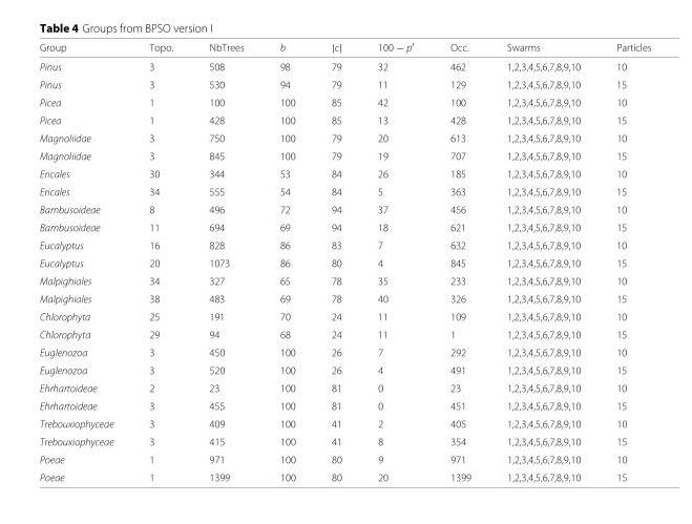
<table><thead><tr><td>Group</td><td>Topo.</td><td>NbTrees</td><td>b</td><td>|c|</td><td>100 − p<sup>′</sup></td><td>Occ.</td><td>Swarms</td><td>Particles</td></tr></thead><tbody><tr><td>Pinus</td><td>3</td><td>508</td><td>98</td><td>79</td><td>32</td><td>462</td><td>1,2,3,4,5,6,7,8,9,10</td><td>10</td></tr><tr><td>Pinus</td><td>3</td><td>530</td><td>94</td><td>79</td><td>11</td><td>129</td><td>1,2,3,4,5,6,7,8,9,10</td><td>15</td></tr><tr><td>Picea</td><td>1</td><td>100</td><td>100</td><td>85</td><td>42</td><td>100</td><td>1,2,3,4,5,6,7,8,9,10</td><td>10</td></tr><tr><td>Picea</td><td>1</td><td>428</td><td>100</td><td>85</td><td>13</td><td>428</td><td>1,2,3,4,5,6,7,8,9,10</td><td>15</td></tr><tr><td>Magnoliidae</td><td>3</td><td>750</td><td>100</td><td>79</td><td>20</td><td>613</td><td>1,2,3,4,5,6,7,8,9,10</td><td>10</td></tr><tr><td>Magnoliidae</td><td>3</td><td>845</td><td>100</td><td>79</td><td>19</td><td>707</td><td>1,2,3,4,5,6,7,8,9,10</td><td>15</td></tr><tr><td>Ericales</td><td>30</td><td>344</td><td>53</td><td>84</td><td>26</td><td>185</td><td>1,2,3,4,5,6,7,8,9,10</td><td>10</td></tr><tr><td>Ericales</td><td>34</td><td>555</td><td>54</td><td>84</td><td>5</td><td>363</td><td>1,2,3,4,5,6,7,8,9,10</td><td>15</td></tr><tr><td>Bambusoideae</td><td>8</td><td>496</td><td>72</td><td>94</td><td>37</td><td>456</td><td>1,2,3,4,5,6,7,8,9,10</td><td>10</td></tr><tr><td>Bambusoideae</td><td>11</td><td>694</td><td>69</td><td>94</td><td>18</td><td>621</td><td>1,2,3,4,5,6,7,8,9,10</td><td>15</td></tr><tr><td>Eucalyptus</td><td>16</td><td>828</td><td>86</td><td>83</td><td>7</td><td>632</td><td>1,2,3,4,5,6,7,8,9,10</td><td>10</td></tr><tr><td>Eucalyptus</td><td>20</td><td>1073</td><td>86</td><td>80</td><td>4</td><td>845</td><td>1,2,3,4,5,6,7,8,9,10</td><td>15</td></tr><tr><td>Malpighiales</td><td>34</td><td>327</td><td>65</td><td>78</td><td>35</td><td>233</td><td>1,2,3,4,5,6,7,8,9,10</td><td>10</td></tr><tr><td>Malpighiales</td><td>38</td><td>483</td><td>69</td><td>78</td><td>40</td><td>326</td><td>1,2,3,4,5,6,7,8,9,10</td><td>15</td></tr><tr><td>Chlorophyta</td><td>25</td><td>191</td><td>70</td><td>24</td><td>11</td><td>109</td><td>1,2,3,4,5,6,7,8,9,10</td><td>10</td></tr><tr><td>Chlorophyta</td><td>29</td><td>94</td><td>68</td><td>24</td><td>11</td><td>1</td><td>1,2,3,4,5,6,7,8,9,10</td><td>15</td></tr><tr><td>Euglenozoa</td><td>3</td><td>450</td><td>100</td><td>26</td><td>7</td><td>292</td><td>1,2,3,4,5,6,7,8,9,10</td><td>10</td></tr><tr><td>Euglenozoa</td><td>3</td><td>520</td><td>100</td><td>26</td><td>4</td><td>491</td><td>1,2,3,4,5,6,7,8,9,10</td><td>15</td></tr><tr><td>Ehrhartoideae</td><td>2</td><td>23</td><td>100</td><td>81</td><td>0</td><td>23</td><td>1,2,3,4,5,6,7,8,9,10</td><td>10</td></tr><tr><td>Ehrhartoideae</td><td>3</td><td>455</td><td>100</td><td>81</td><td>0</td><td>451</td><td>1,2,3,4,5,6,7,8,9,10</td><td>15</td></tr><tr><td>Trebouxiophyceae</td><td>3</td><td>409</td><td>100</td><td>41</td><td>2</td><td>405</td><td>1,2,3,4,5,6,7,8,9,10</td><td>10</td></tr><tr><td>Trebouxiophyceae</td><td>3</td><td>415</td><td>100</td><td>41</td><td>8</td><td>354</td><td>1,2,3,4,5,6,7,8,9,10</td><td>15</td></tr><tr><td>Poeae</td><td>1</td><td>971</td><td>100</td><td>80</td><td>9</td><td>971</td><td>1,2,3,4,5,6,7,8,9,10</td><td>10</td></tr><tr><td>Poeae</td><td>1</td><td>1399</td><td>100</td><td>80</td><td>20</td><td>1399</td><td>1,2,3,4,5,6,7,8,9,10</td><td>15</td></tr></tbody></table>